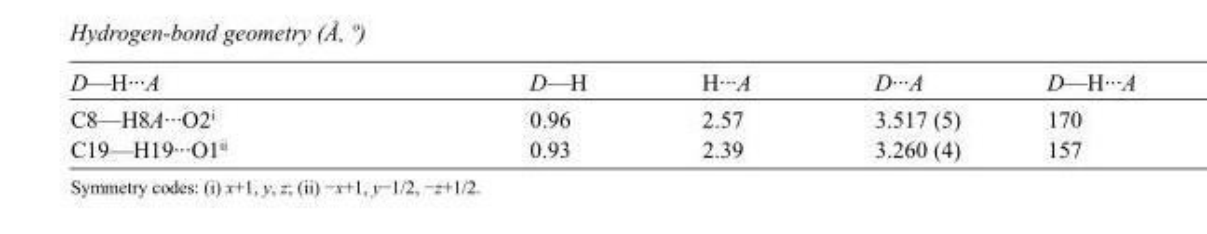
<table><tbody><tr><td>D—H···A</td><td>D—H</td><td>H···A</td><td>D···A</td><td>D—H···A</td></tr><tr><td>C8—H8A···O2<sup>i</sup></td><td>0.96</td><td>2.57</td><td>3.517 (5)</td><td>170</td></tr><tr><td>C19—H19···O1<sup>ii</sup></td><td>0.93</td><td>2.39</td><td>3.260 (4)</td><td>157</td></tr></tbody></table>